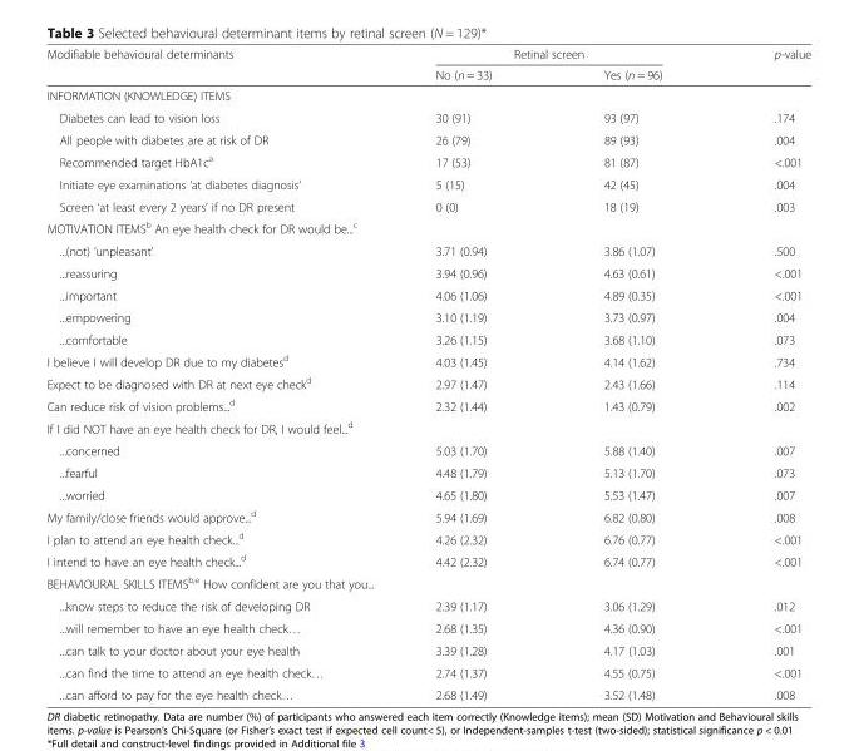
<table><thead><tr><td rowspan="2">Modifiable behavioural determinants</td><td colspan="2">Retinal screen</td><td rowspan="2">p-value</td></tr><tr><td>No (n = 33)</td><td>Yes (n = 96)</td></tr></thead><tbody><tr><td colspan="4">INFORMATION (KNOWLEDGE) ITEMS</td></tr><tr><td>Diabetes can lead to vision loss</td><td>30 (91)</td><td>93 (97)</td><td>.174</td></tr><tr><td>All people with diabetes are at risk of DR</td><td>26 (79)</td><td>89 (93)</td><td>.004</td></tr><tr><td>Recommended target HbA1c<sup>a</sup></td><td>17 (53)</td><td>81 (87)</td><td>&lt;.001</td></tr><tr><td>Initiate eye examinations ‘at diabetes diagnosis’</td><td>5 (15)</td><td>42 (45)</td><td>.004</td></tr><tr><td>Screen ‘at least every 2 years’ if no DR present</td><td>0 (0)</td><td>18 (19)</td><td>.003</td></tr><tr><td colspan="4">MOTIVATION ITEMS<sup>b</sup> An eye health check for DR would be...<sup>c</sup></td></tr><tr><td>...(not) ‘unpleasant’</td><td>3.71 (0.94)</td><td>3.86 (1.07)</td><td>.500</td></tr><tr><td>...reassuring</td><td>3.94 (0.96)</td><td>4.63 (0.61)</td><td>&lt;.001</td></tr><tr><td>...important</td><td>4.06 (1.06)</td><td>4.89 (0.35)</td><td>&lt;.001</td></tr><tr><td>...empowering</td><td>3.10 (1.19)</td><td>3.73 (0.97)</td><td>.004</td></tr><tr><td>...comfortable</td><td>3.26 (1.15)</td><td>3.68 (1.10)</td><td>.073</td></tr><tr><td>I believe I will develop DR due to my diabetes<sup>d</sup></td><td>4.03 (1.45)</td><td>4.14 (1.62)</td><td>.734</td></tr><tr><td>Expect to be diagnosed with DR at next eye check<sup>d</sup></td><td>2.97 (1.47)</td><td>2.43 (1.66)</td><td>.114</td></tr><tr><td>Can reduce risk of vision problems...<sup>d</sup></td><td>2.32 (1.44)</td><td>1.43 (0.79)</td><td>.002</td></tr><tr><td colspan="4">If I did NOT have an eye health check for DR, I would feel...<sup>d</sup></td></tr><tr><td>...concerned</td><td>5.03 (1.70)</td><td>5.88 (1.40)</td><td>.007</td></tr><tr><td>...fearful</td><td>4.48 (1.79)</td><td>5.13 (1.70)</td><td>.073</td></tr><tr><td>...worried</td><td>4.65 (1.80)</td><td>5.53 (1.47)</td><td>.007</td></tr><tr><td>My family/close friends would approve...<sup>d</sup></td><td>5.94 (1.69)</td><td>6.82 (0.80)</td><td>.008</td></tr><tr><td>I plan to attend an eye health check...<sup>d</sup></td><td>4.26 (2.32)</td><td>6.76 (0.77)</td><td>&lt;.001</td></tr><tr><td>I intend to have an eye health check...<sup>d</sup></td><td>4.42 (2.32)</td><td>6.74 (0.77)</td><td>&lt;.001</td></tr><tr><td colspan="4">BEHAVIOURAL SKILLS ITEMS<sup>b,e</sup> How confident are you that you...</td></tr><tr><td>...know steps to reduce the risk of developing DR</td><td>2.39 (1.17)</td><td>3.06 (1.29)</td><td>.012</td></tr><tr><td>...will remember to have an eye health check…</td><td>2.68 (1.35)</td><td>4.36 (0.90)</td><td>&lt;.001</td></tr><tr><td>...can talk to your doctor about your eye health</td><td>3.39 (1.28)</td><td>4.17 (1.03)</td><td>.001</td></tr><tr><td>...can find the time to attend an eye health check…</td><td>2.74 (1.37)</td><td>4.55 (0.75)</td><td>&lt;.001</td></tr><tr><td>...can afford to pay for the eye health check…</td><td>2.68 (1.49)</td><td>3.52 (1.48)</td><td>.008</td></tr></tbody></table>